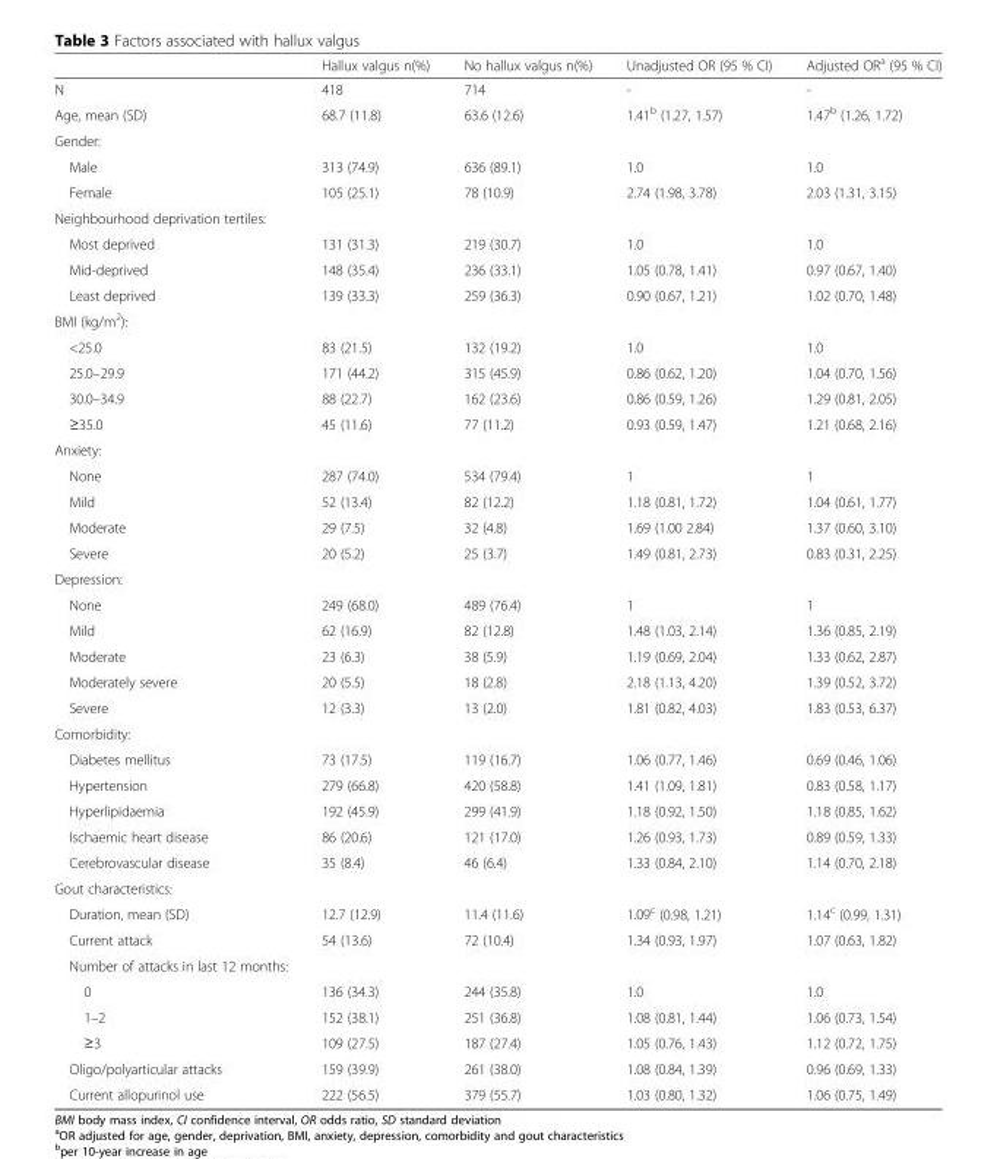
<table><thead><tr><td></td><td>Hallux valgus n(%)</td><td>No hallux valgus n(%)</td><td>Unadjusted OR (95 % CI)</td><td>Adjusted OR<sup>a</sup> (95 % CI)</td></tr></thead><tbody><tr><td>N</td><td>418</td><td>714</td><td>-</td><td>-</td></tr><tr><td>Age, mean (SD)</td><td>68.7 (11.8)</td><td>63.6 (12.6)</td><td>1.41<sup>b</sup> (1.27, 1.57)</td><td>1.47<sup>b</sup> (1.26, 1.72)</td></tr><tr><td colspan="5">Gender:</td></tr><tr><td>Male</td><td>313 (74.9)</td><td>636 (89.1)</td><td>1.0</td><td>1.0</td></tr><tr><td>Female</td><td>105 (25.1)</td><td>78 (10.9)</td><td>2.74 (1.98, 3.78)</td><td>2.03 (1.31, 3.15)</td></tr><tr><td colspan="5">Neighbourhood deprivation tertiles:</td></tr><tr><td>Most deprived</td><td>131 (31.3)</td><td>219 (30.7)</td><td>1.0</td><td>1.0</td></tr><tr><td>Mid-deprived</td><td>148 (35.4)</td><td>236 (33.1)</td><td>1.05 (0.78, 1.41)</td><td>0.97 (0.67, 1.40)</td></tr><tr><td>Least deprived</td><td>139 (33.3)</td><td>259 (36.3)</td><td>0.90 (0.67, 1.21)</td><td>1.02 (0.70, 1.48)</td></tr><tr><td colspan="5">BMI (kg/m<sup>2</sup>):</td></tr><tr><td>&lt;25.0</td><td>83 (21.5)</td><td>132 (19.2)</td><td>1.0</td><td>1.0</td></tr><tr><td>25.0–29.9</td><td>171 (44.2)</td><td>315 (45.9)</td><td>0.86 (0.62, 1.20)</td><td>1.04 (0.70, 1.56)</td></tr><tr><td>30.0–34.9</td><td>88 (22.7)</td><td>162 (23.6)</td><td>0.86 (0.59, 1.26)</td><td>1.29 (0.81, 2.05)</td></tr><tr><td>≥35.0</td><td>45 (11.6)</td><td>77 (11.2)</td><td>0.93 (0.59, 1.47)</td><td>1.21 (0.68, 2.16)</td></tr><tr><td colspan="5">Anxiety:</td></tr><tr><td>None</td><td>287 (74.0)</td><td>534 (79.4)</td><td>1</td><td>1</td></tr><tr><td>Mild</td><td>52 (13.4)</td><td>82 (12.2)</td><td>1.18 (0.81, 1.72)</td><td>1.04 (0.61, 1.77)</td></tr><tr><td>Moderate</td><td>29 (7.5)</td><td>32 (4.8)</td><td>1.69 (1.00 2.84)</td><td>1.37 (0.60, 3.10)</td></tr><tr><td>Severe</td><td>20 (5.2)</td><td>25 (3.7)</td><td>1.49 (0.81, 2.73)</td><td>0.83 (0.31, 2.25)</td></tr><tr><td colspan="5">Depression:</td></tr><tr><td>None</td><td>249 (68.0)</td><td>489 (76.4)</td><td>1</td><td>1</td></tr><tr><td>Mild</td><td>62 (16.9)</td><td>82 (12.8)</td><td>1.48 (1.03, 2.14)</td><td>1.36 (0.85, 2.19)</td></tr><tr><td>Moderate</td><td>23 (6.3)</td><td>38 (5.9)</td><td>1.19 (0.69, 2.04)</td><td>1.33 (0.62, 2.87)</td></tr><tr><td>Moderately severe</td><td>20 (5.5)</td><td>18 (2.8)</td><td>2.18 (1.13, 4.20)</td><td>1.39 (0.52, 3.72)</td></tr><tr><td>Severe</td><td>12 (3.3)</td><td>13 (2.0)</td><td>1.81 (0.82, 4.03)</td><td>1.83 (0.53, 6.37)</td></tr><tr><td colspan="5">Comorbidity:</td></tr><tr><td>Diabetes mellitus</td><td>73 (17.5)</td><td>119 (16.7)</td><td>1.06 (0.77, 1.46)</td><td>0.69 (0.46, 1.06)</td></tr><tr><td>Hypertension</td><td>279 (66.8)</td><td>420 (58.8)</td><td>1.41 (1.09, 1.81)</td><td>0.83 (0.58, 1.17)</td></tr><tr><td>Hyperlipidaemia</td><td>192 (45.9)</td><td>299 (41.9)</td><td>1.18 (0.92, 1.50)</td><td>1.18 (0.85, 1.62)</td></tr><tr><td>Ischaemic heart disease</td><td>86 (20.6)</td><td>121 (17.0)</td><td>1.26 (0.93, 1.73)</td><td>0.89 (0.59, 1.33)</td></tr><tr><td>Cerebrovascular disease</td><td>35 (8.4)</td><td>46 (6.4)</td><td>1.33 (0.84, 2.10)</td><td>1.14 (0.70, 2.18)</td></tr><tr><td colspan="5">Gout characteristics:</td></tr><tr><td>Duration, mean (SD)</td><td>12.7 (12.9)</td><td>11.4 (11.6)</td><td>1.09<sup>c</sup> (0.98, 1.21)</td><td>1.14<sup>c</sup> (0.99, 1.31)</td></tr><tr><td>Current attack</td><td>54 (13.6)</td><td>72 (10.4)</td><td>1.34 (0.93, 1.97)</td><td>1.07 (0.63, 1.82)</td></tr><tr><td colspan="5">Number of attacks in last 12 months:</td></tr><tr><td>0</td><td>136 (34.3)</td><td>244 (35.8)</td><td>1.0</td><td>1.0</td></tr><tr><td>1–2</td><td>152 (38.1)</td><td>251 (36.8)</td><td>1.08 (0.81, 1.44)</td><td>1.06 (0.73, 1.54)</td></tr><tr><td>≥3</td><td>109 (27.5)</td><td>187 (27.4)</td><td>1.05 (0.76, 1.43)</td><td>1.12 (0.72, 1.75)</td></tr><tr><td>Oligo/polyarticular attacks</td><td>159 (39.9)</td><td>261 (38.0)</td><td>1.08 (0.84, 1.39)</td><td>0.96 (0.69, 1.33)</td></tr><tr><td>Current allopurinol use</td><td>222 (56.5)</td><td>379 (55.7)</td><td>1.03 (0.80, 1.32)</td><td>1.06 (0.75, 1.49)</td></tr></tbody></table>